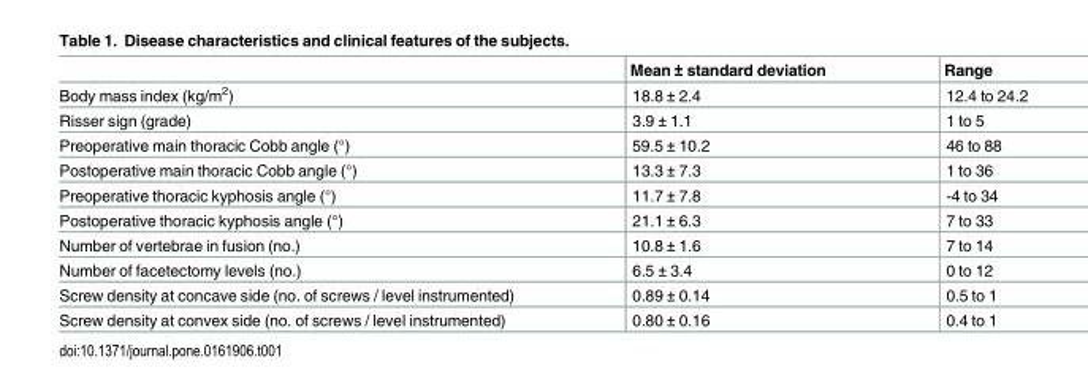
<table><thead><tr><td></td><td>Mean ± standard deviation</td><td>Range</td></tr></thead><tbody><tr><td>Body mass index (kg/m<sup>2</sup>)</td><td>18.8 ± 2.4</td><td>12.4 to 24.2</td></tr><tr><td>Risser sign (grade)</td><td>3.9 ± 1.1</td><td>1 to 5</td></tr><tr><td>Preoperative main thoracic Cobb angle (°)</td><td>59.5 ± 10.2</td><td>46 to 88</td></tr><tr><td>Postoperative main thoracic Cobb angle (°)</td><td>13.3 ± 7.3</td><td>1 to 36</td></tr><tr><td>Preoperative thoracic kyphosis angle (°)</td><td>11.7 ± 7.8</td><td>-4 to 34</td></tr><tr><td>Postoperative thoracic kyphosis angle (°)</td><td>21.1 ± 6.3</td><td>7 to 33</td></tr><tr><td>Number of vertebrae in fusion (no.)</td><td>10.8 ± 1.6</td><td>7 to 14</td></tr><tr><td>Number of facetectomy levels (no.)</td><td>6.5 ± 3.4</td><td>0 to 12</td></tr><tr><td>Screw density at concave side (no. of screws / level instrumented)</td><td>0.89 ± 0.14</td><td>0.5 to 1</td></tr><tr><td>Screw density at convex side (no. of screws / level instrumented)</td><td>0.80 ± 0.16</td><td>0.4 to 1</td></tr></tbody></table>